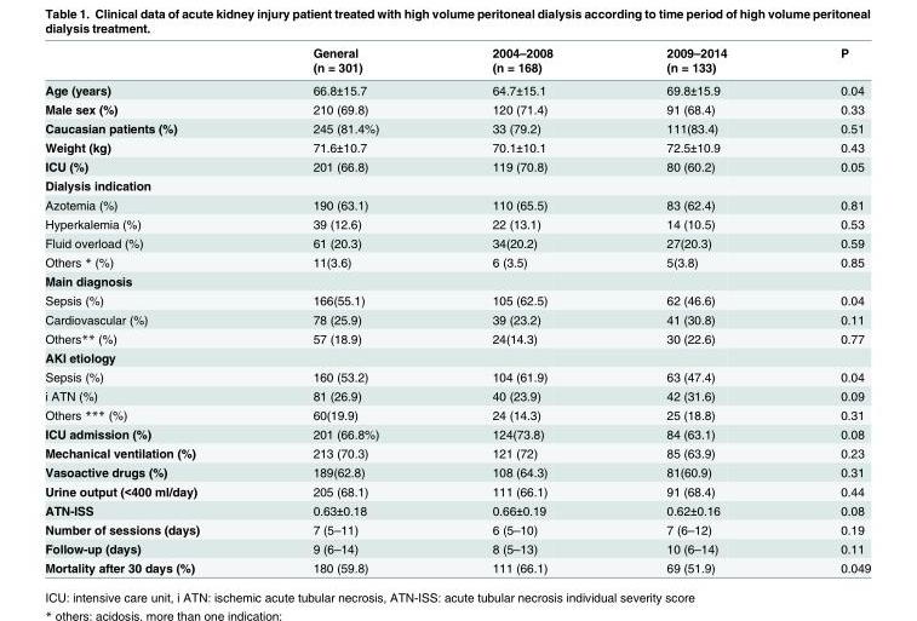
<table><thead><tr><td rowspan="2"></td><td rowspan="2">General (n = 301)</td><td rowspan="2">2004–2008 (n = 168)</td><td rowspan="2">2009–2014 (n = 133)</td><td rowspan="2">P</td></tr><tr></tr></thead><tbody><tr><td>Age (years)</td><td>66.8±15.7</td><td>64.7±15.1</td><td>69.8±15.9</td><td>0.04</td></tr><tr><td>Male sex (%)</td><td>210 (69.8)</td><td>120 (71.4)</td><td>91 (68.4)</td><td>0.33</td></tr><tr><td>Caucasian patients (%)</td><td>245 (81.4%)</td><td>33 (79.2)</td><td>111(83.4)</td><td>0.51</td></tr><tr><td>Weight (kg)</td><td>71.6±10.7</td><td>70.1±10.1</td><td>72.5±10.9</td><td>0.43</td></tr><tr><td>ICU (%)</td><td>201 (66.8)</td><td>119 (70.8)</td><td>80 (60.2)</td><td>0.05</td></tr><tr><td colspan="5">Dialysis indication</td></tr><tr><td>Azotemia (%)</td><td>190 (63.1)</td><td>110 (65.5)</td><td>83 (62.4)</td><td>0.81</td></tr><tr><td>Hyperkalemia (%)</td><td>39 (12.6)</td><td>22 (13.1)</td><td>14 (10.5)</td><td>0.53</td></tr><tr><td>Fluid overload (%)</td><td>61 (20.3)</td><td>34(20.2)</td><td>27(20.3)</td><td>0.59</td></tr><tr><td>Others * (%)</td><td>11(3.6)</td><td>6 (3.5)</td><td>5(3.8)</td><td>0.85</td></tr><tr><td colspan="5">Main diagnosis</td></tr><tr><td>Sepsis (%)</td><td>166(55.1)</td><td>105 (62.5)</td><td>62 (46.6)</td><td>0.04</td></tr><tr><td>Cardiovascular (%)</td><td>78 (25.9)</td><td>39 (23.2)</td><td>41 (30.8)</td><td>0.11</td></tr><tr><td>Others** (%)</td><td>57 (18.9)</td><td>24(14.3)</td><td>30 (22.6)</td><td>0.77</td></tr><tr><td colspan="5">AKI etiology</td></tr><tr><td>Sepsis (%)</td><td>160 (53.2)</td><td>104 (61.9)</td><td>63 (47.4)</td><td>0.04</td></tr><tr><td>i ATN (%)</td><td>81 (26.9)</td><td>40 (23.9)</td><td>42 (31.6)</td><td>0.09</td></tr><tr><td>Others *** (%)</td><td>60(19.9)</td><td>24 (14.3)</td><td>25 (18.8)</td><td>0.31</td></tr><tr><td>ICU admission (%)</td><td>201 (66.8%)</td><td>124(73.8)</td><td>84 (63.1)</td><td>0.08</td></tr><tr><td>Mechanical ventilation (%)</td><td>213 (70.3)</td><td>121 (72)</td><td>85 (63.9)</td><td>0.23</td></tr><tr><td>Vasoactive drugs (%)</td><td>189(62.8)</td><td>108 (64.3)</td><td>81(60.9)</td><td>0.31</td></tr><tr><td>Urine output (&lt;400 ml/day)</td><td>205 (68.1)</td><td>111 (66.1)</td><td>91 (68.4)</td><td>0.44</td></tr><tr><td>ATN-ISS</td><td>0.63±0.18</td><td>0.66±0.19</td><td>0.62±0.16</td><td>0.08</td></tr><tr><td>Number of sessions (days)</td><td>7 (5–11)</td><td>6 (5–10)</td><td>7 (6–12)</td><td>0.19</td></tr><tr><td>Follow-up (days)</td><td>9 (6–14)</td><td>8 (5–13)</td><td>10 (6–14)</td><td>0.11</td></tr><tr><td>Mortality after 30 days (%)</td><td>180 (59.8)</td><td>111 (66.1)</td><td>69 (51.9)</td><td>0.049</td></tr></tbody></table>